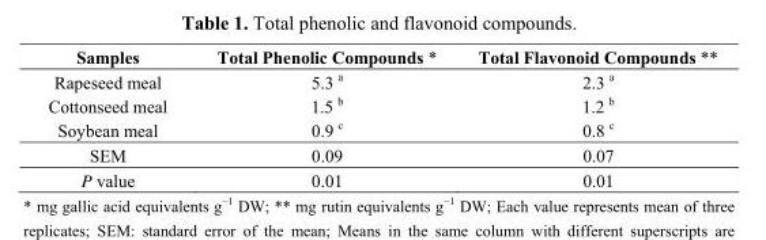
<table><thead><tr><td>Samples</td><td>Total Phenolic Compounds *</td><td>Total Flavonoid Compounds **</td></tr></thead><tbody><tr><td>Rapeseed meal</td><td>5.3 <sup>a</sup></td><td>2.3 <sup>a</sup></td></tr><tr><td>Cottonseed meal</td><td>1.5 <sup>b</sup></td><td>1.2 <sup>b</sup></td></tr><tr><td>Soybean meal</td><td>0.9 <sup>c</sup></td><td>0.8 <sup>c</sup></td></tr><tr><td>SEM</td><td>0.09</td><td>0.07</td></tr><tr><td>P value</td><td>0.01</td><td>0.01</td></tr></tbody></table>